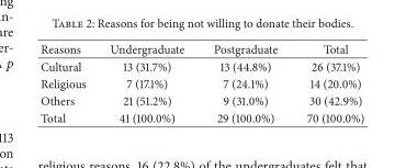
<table><thead><tr><td>Reasons</td><td>Undergraduate</td><td>Postgraduate</td><td>Total</td></tr></thead><tbody><tr><td>Cultural</td><td>13 (31.7%)</td><td>13 (44.8%)</td><td>26 (37.1%)</td></tr><tr><td>Religious</td><td>7 (17.1%)</td><td>7 (24.1%)</td><td>14 (20.0%)</td></tr><tr><td>Others</td><td>21 (51.2%)</td><td>9 (31.0%)</td><td>30 (42.9%)</td></tr><tr><td>Total</td><td>41 (100.0%)</td><td>29 (100.0%)</td><td>70 (100.0%)</td></tr></tbody></table>